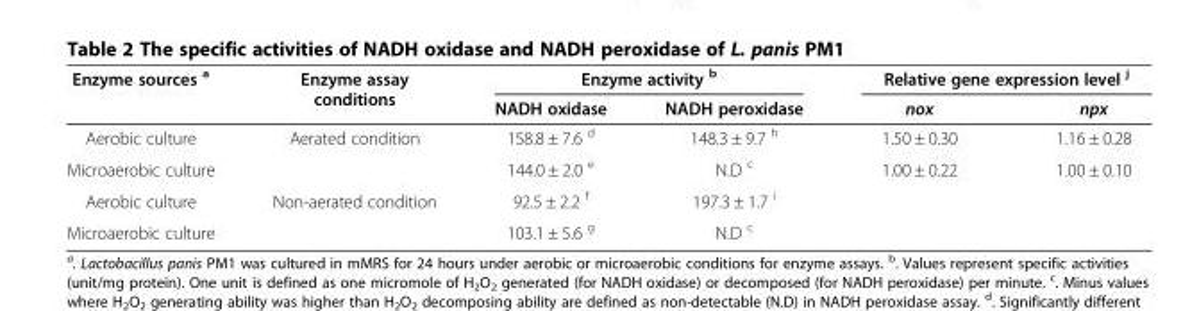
<table><thead><tr><td rowspan="2">Enzyme sources <sup>a</sup></td><td rowspan="2">Enzyme assay conditions</td><td colspan="2">Enzyme activity <sup>b</sup></td><td colspan="2">Relative gene expression level <sup>j</sup></td></tr><tr><td>NADH oxidase</td><td>NADH peroxidase</td><td>nox</td><td>npx</td></tr></thead><tbody><tr><td>Aerobic culture</td><td rowspan="2">Aerated condition</td><td>158.8 ± 7.6 <sup>d</sup></td><td>148.3 ± 9.7 <sup>h</sup></td><td>1.50 ± 0.30</td><td>1.16 ± 0.28</td></tr><tr><td>Microaerobic culture</td><td>144.0 ± 2.0 <sup>e</sup></td><td>N.D <sup>c</sup></td><td>1.00 ± 0.22</td><td>1.00 ± 0.10</td></tr><tr><td>Aerobic culture</td><td rowspan="2">Non-aerated condition</td><td>92.5 ± 2.2 <sup>f</sup></td><td>197.3 ± 1.7 <sup>i</sup></td><td></td><td></td></tr><tr><td>Microaerobic culture</td><td>103.1 ± 5.6 <sup>g</sup></td><td>N.D <sup>c</sup></td><td></td><td></td></tr></tbody></table>